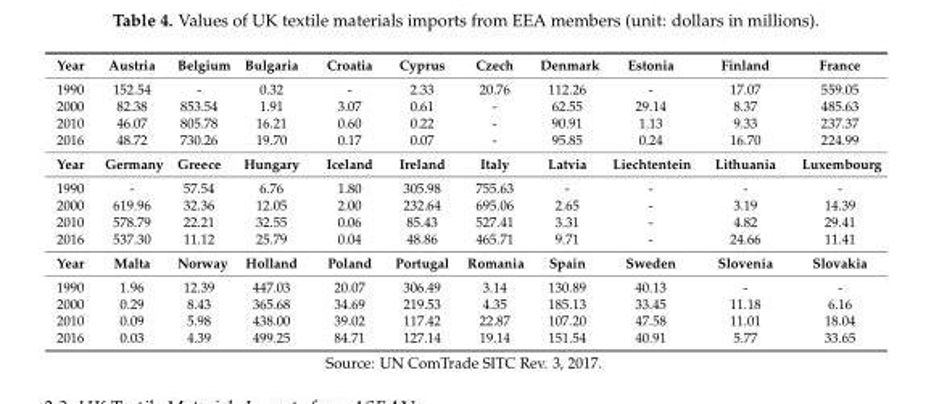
<table><tbody><tr><td>Year</td><td>Austria</td><td>Belgium</td><td>Bulgaria</td><td>Croatia</td><td>Cyprus</td><td>Czech</td><td>Denmark</td><td>Estonia</td><td>Finland</td><td>France</td></tr><tr><td>1990</td><td>152.54</td><td>-</td><td>0.32</td><td>-</td><td>2.33</td><td>20.76</td><td>112.26</td><td>-</td><td>17.07</td><td>559.05</td></tr><tr><td>2000</td><td>82.38</td><td>853.54</td><td>1.91</td><td>3.07</td><td>0.61</td><td>-</td><td>62.55</td><td>29.14</td><td>8.37</td><td>485.63</td></tr><tr><td>2010</td><td>46.07</td><td>805.78</td><td>16.21</td><td>0.60</td><td>0.22</td><td>-</td><td>90.91</td><td>1.13</td><td>9.33</td><td>237.37</td></tr><tr><td>2016</td><td>48.72</td><td>730.26</td><td>19.70</td><td>0.17</td><td>0.07</td><td>-</td><td>95.85</td><td>0.24</td><td>16.70</td><td>224.99</td></tr><tr><td>Year</td><td>Germany</td><td>Greece</td><td>Hungary</td><td>Iceland</td><td>Ireland</td><td>Italy</td><td>Latvia</td><td>Liechtentein</td><td>Lithuania</td><td>Luxembourg</td></tr><tr><td>1990</td><td>-</td><td>57.54</td><td>6.76</td><td>1.80</td><td>305.98</td><td>755.63</td><td>-</td><td>-</td><td>-</td><td>-</td></tr><tr><td>2000</td><td>619.96</td><td>32.36</td><td>12.05</td><td>2.00</td><td>232.64</td><td>695.06</td><td>2.65</td><td>-</td><td>3.19</td><td>14.39</td></tr><tr><td>2010</td><td>578.79</td><td>22.21</td><td>32.55</td><td>0.06</td><td>85.43</td><td>527.41</td><td>3.31</td><td>-</td><td>4.82</td><td>29.41</td></tr><tr><td>2016</td><td>537.30</td><td>11.12</td><td>25.79</td><td>0.04</td><td>48.86</td><td>465.71</td><td>9.71</td><td>-</td><td>24.66</td><td>11.41</td></tr><tr><td>Year</td><td>Malta</td><td>Norway</td><td>Holland</td><td>Poland</td><td>Portugal</td><td>Romania</td><td>Spain</td><td>Sweden</td><td>Slovenia</td><td>Slovakia</td></tr><tr><td>1990</td><td>1.96</td><td>12.39</td><td>447.03</td><td>20.07</td><td>306.49</td><td>3.14</td><td>130.89</td><td>40.13</td><td>-</td><td>-</td></tr><tr><td>2000</td><td>0.29</td><td>8.43</td><td>365.68</td><td>34.69</td><td>219.53</td><td>4.35</td><td>185.13</td><td>33.45</td><td>11.18</td><td>6.16</td></tr><tr><td>2010</td><td>0.09</td><td>5.98</td><td>438.00</td><td>39.02</td><td>117.42</td><td>22.87</td><td>107.20</td><td>47.58</td><td>11.01</td><td>18.04</td></tr><tr><td>2016</td><td>0.03</td><td>4.39</td><td>499.25</td><td>84.71</td><td>127.14</td><td>19.14</td><td>151.54</td><td>40.91</td><td>5.77</td><td>33.65</td></tr></tbody></table>